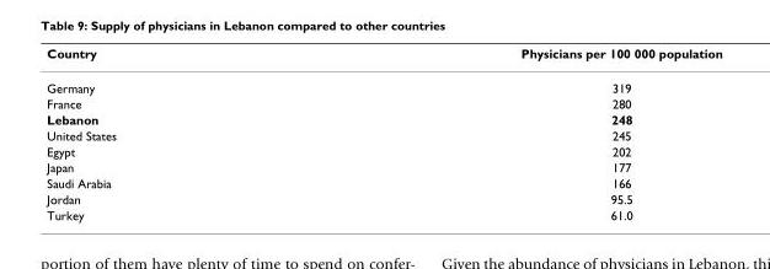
<table><thead><tr><td>Country</td><td>Physicians per 100 000 population</td></tr></thead><tbody><tr><td>Germany</td><td>319</td></tr><tr><td>France</td><td>280</td></tr><tr><td>Lebanon</td><td>248</td></tr><tr><td>United States</td><td>245</td></tr><tr><td>Egypt</td><td>202</td></tr><tr><td>Japan</td><td>177</td></tr><tr><td>Saudi Arabia</td><td>166</td></tr><tr><td>Jordan</td><td>95.5</td></tr><tr><td>Turkey</td><td>61.0</td></tr></tbody></table>